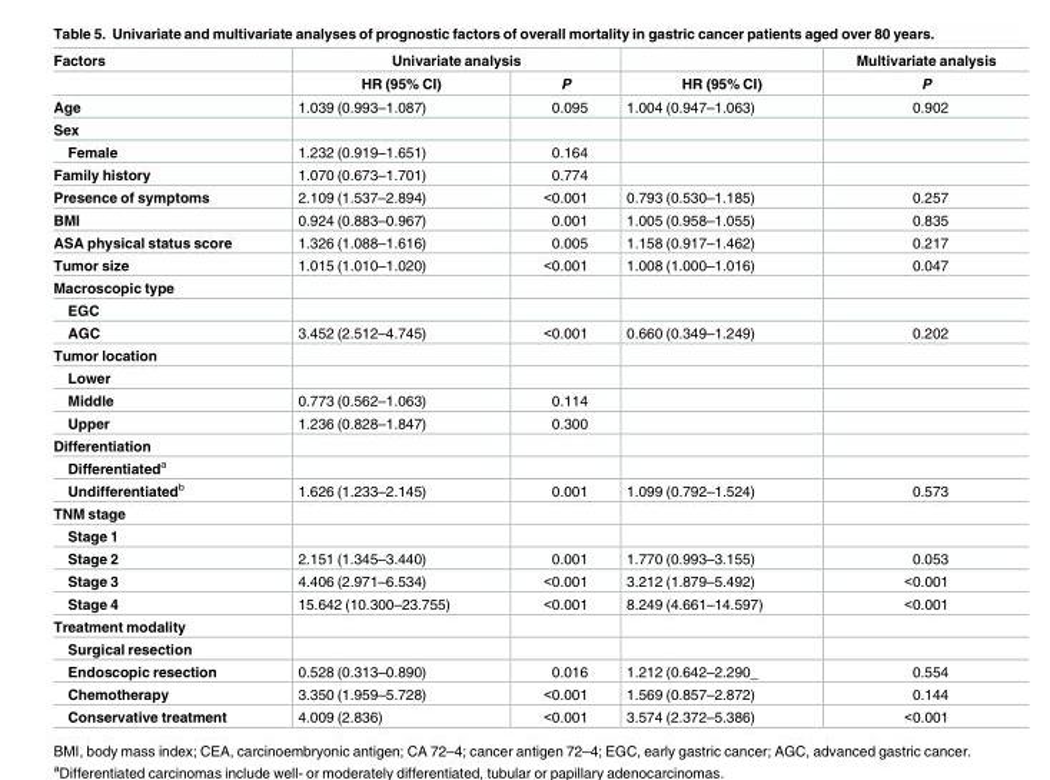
<table><thead><tr><td rowspan="2">Factors</td><td colspan="2">Univariate analysis</td><td rowspan="2">HR (95% CI)</td><td rowspan="2">Multivariate analysis P</td></tr><tr><td>HR (95% CI)</td><td>P</td></tr></thead><tbody><tr><td>Age</td><td>1.039 (0.993–1.087)</td><td>0.095</td><td>1.004 (0.947–1.063)</td><td>0.902</td></tr><tr><td colspan="5">Sex</td></tr><tr><td>Female</td><td>1.232 (0.919–1.651)</td><td>0.164</td><td></td><td></td></tr><tr><td>Family history</td><td>1.070 (0.673–1.701)</td><td>0.774</td><td></td><td></td></tr><tr><td>Presence of symptoms</td><td>2.109 (1.537–2.894)</td><td>&lt;0.001</td><td>0.793 (0.530–1.185)</td><td>0.257</td></tr><tr><td>BMI</td><td>0.924 (0.883–0.967)</td><td>0.001</td><td>1.005 (0.958–1.055)</td><td>0.835</td></tr><tr><td>ASA physical status score</td><td>1.326 (1.088–1.616)</td><td>0.005</td><td>1.158 (0.917–1.462)</td><td>0.217</td></tr><tr><td>Tumor size</td><td>1.015 (1.010–1.020)</td><td>&lt;0.001</td><td>1.008 (1.000–1.016)</td><td>0.047</td></tr><tr><td colspan="5">Macroscopic type</td></tr><tr><td colspan="5">EGC</td></tr><tr><td>AGC</td><td>3.452 (2.512–4.745)</td><td>&lt;0.001</td><td>0.660 (0.349–1.249)</td><td>0.202</td></tr><tr><td colspan="5">Tumor location</td></tr><tr><td colspan="5">Lower</td></tr><tr><td>Middle</td><td>0.773 (0.562–1.063)</td><td>0.114</td><td></td><td></td></tr><tr><td>Upper</td><td>1.236 (0.828–1.847)</td><td>0.300</td><td></td><td></td></tr><tr><td colspan="5">Differentiation</td></tr><tr><td colspan="5">Differentiated<sup>a</sup></td></tr><tr><td>Undifferentiated<sup>b</sup></td><td>1.626 (1.233–2.145)</td><td>0.001</td><td>1.099 (0.792–1.524)</td><td>0.573</td></tr><tr><td colspan="5">TNM stage</td></tr><tr><td colspan="5">Stage 1</td></tr><tr><td>Stage 2</td><td>2.151 (1.345–3.440)</td><td>0.001</td><td>1.770 (0.993–3.155)</td><td>0.053</td></tr><tr><td>Stage 3</td><td>4.406 (2.971–6.534)</td><td>&lt;0.001</td><td>3.212 (1.879–5.492)</td><td>&lt;0.001</td></tr><tr><td>Stage 4</td><td>15.642 (10.300–23.755)</td><td>&lt;0.001</td><td>8.249 (4.661–14.597)</td><td>&lt;0.001</td></tr><tr><td colspan="5">Treatment modality</td></tr><tr><td colspan="5">Surgical resection</td></tr><tr><td>Endoscopic resection</td><td>0.528 (0.313–0.890)</td><td>0.016</td><td>1.212 (0.642–2.290_</td><td>0.554</td></tr><tr><td>Chemotherapy</td><td>3.350 (1.959–5.728)</td><td>&lt;0.001</td><td>1.569 (0.857–2.872)</td><td>0.144</td></tr><tr><td>Conservative treatment</td><td>4.009 (2.836)</td><td>&lt;0.001</td><td>3.574 (2.372–5.386)</td><td>&lt;0.001</td></tr></tbody></table>